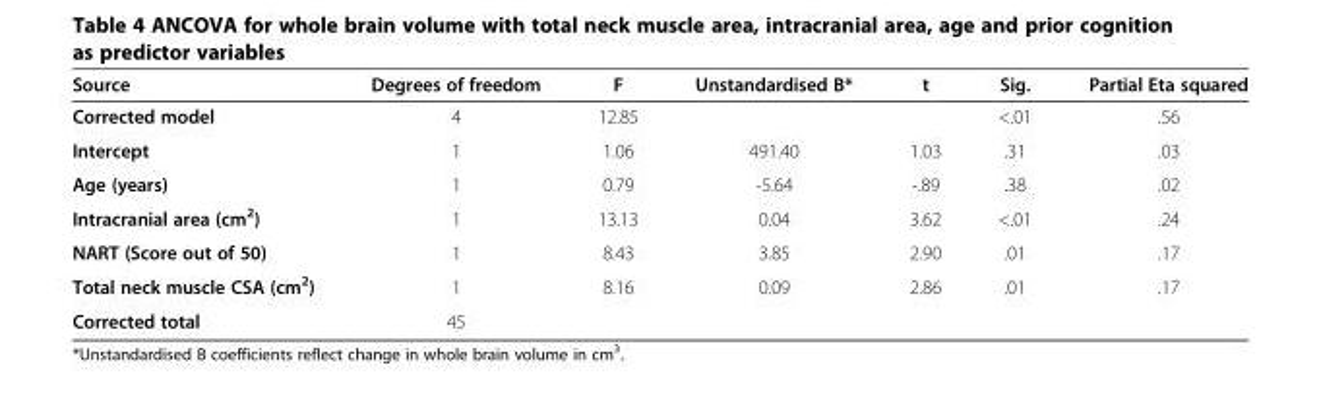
<table><thead><tr><td>Source</td><td>Degrees of freedom</td><td>F</td><td>Unstandardised B*</td><td>t</td><td>Sig.</td><td>Partial Eta squared</td></tr></thead><tbody><tr><td>Corrected model</td><td>4</td><td>12.85</td><td></td><td></td><td>&lt;.01</td><td>.56</td></tr><tr><td>Intercept</td><td>1</td><td>1.06</td><td>491.40</td><td>1.03</td><td>.31</td><td>.03</td></tr><tr><td>Age (years)</td><td>1</td><td>0.79</td><td>-5.64</td><td>-.89</td><td>.38</td><td>.02</td></tr><tr><td>Intracranial area (cm<sup>2</sup>)</td><td>1</td><td>13.13</td><td>0.04</td><td>3.62</td><td>&lt;.01</td><td>.24</td></tr><tr><td>NART (Score out of 50)</td><td>1</td><td>8.43</td><td>3.85</td><td>2.90</td><td>.01</td><td>.17</td></tr><tr><td>Total neck muscle CSA (cm<sup>2</sup>)</td><td>1</td><td>8.16</td><td>0.09</td><td>2.86</td><td>.01</td><td>.17</td></tr><tr><td>Corrected total</td><td>45</td><td></td><td></td><td></td><td></td><td></td></tr></tbody></table>